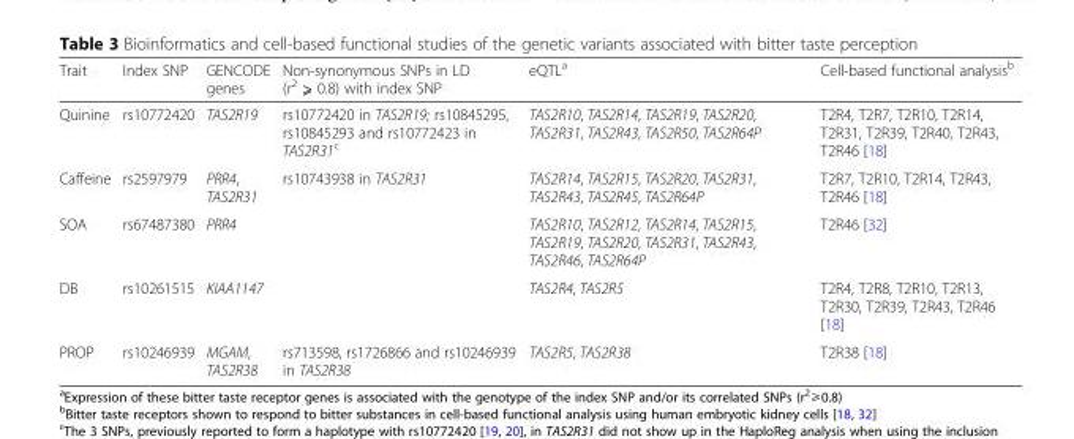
<table><thead><tr><td>Trait</td><td>Index SNP</td><td>GENCODE genes</td><td>Non-synonymous SNPs in LD (r<sup>2</sup> ⩾ 0.8) with index SNP</td><td>eQTL<sup>a</sup></td><td>Cell-based functional analysis<sup>b</sup></td></tr></thead><tbody><tr><td>Quinine</td><td>rs10772420</td><td>TAS2R19</td><td>rs10772420 in TAS2R19; rs10845295, rs10845293 and rs10772423 in TAS2R31<sup>c</sup></td><td>TAS2R10, TAS2R14, TAS2R19, TAS2R20, TAS2R31, TAS2R43, TAS2R50, TAS2R64P</td><td>T2R4, T2R7, T2R10, T2R14, T2R31, T2R39, T2R40, T2R43, T2R46 [18]</td></tr><tr><td>Caffeine</td><td>rs2597979</td><td>PRR4, TAS2R31</td><td>rs10743938 in TAS2R31</td><td>TAS2R14, TAS2R15, TAS2R20, TAS2R31, TAS2R43, TAS2R45, TAS2R64P</td><td>T2R7, T2R10, T2R14, T2R43, T2R46 [18]</td></tr><tr><td>SOA</td><td>rs67487380</td><td>PRR4</td><td></td><td>TAS2R10, TAS2R12, TAS2R14, TAS2R15, TAS2R19, TAS2R20, TAS2R31, TAS2R43, TAS2R46, TAS2R64P</td><td>T2R46 [32]</td></tr><tr><td>DB</td><td>rs10261515</td><td>KIAA1147</td><td></td><td>TAS2R4, TAS2R5</td><td>T2R4, T2R8, T2R10, T2R13, T2R30, T2R39, T2R43, T2R46 [18]</td></tr><tr><td>PROP</td><td>rs10246939</td><td>MGAM, TAS2R38</td><td>rs713598, rs1726866 and rs10246939 in TAS2R38</td><td>TAS2R5, TAS2R38</td><td>T2R38 [18]</td></tr></tbody></table>